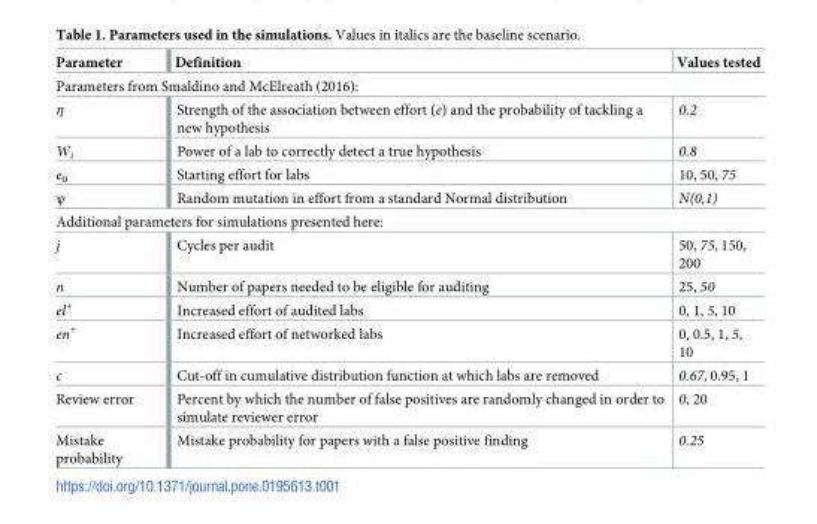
<table><thead><tr><td>Parameter</td><td>Definition</td><td>Values tested</td></tr></thead><tbody><tr><td colspan="3">Parameters from Smaldino and McElreath (2016):</td></tr><tr><td>η</td><td>Strength of the association between effort (e) and the probability of tackling a new hypothesis</td><td>0.2</td></tr><tr><td>W<sub>i</sub></td><td>Power of a lab to correctly detect a true hypothesis</td><td>0.8</td></tr><tr><td>e<sub>0</sub></td><td>Starting effort for labs</td><td>10, 50, 75</td></tr><tr><td>ψ</td><td>Random mutation in effort from a standard Normal distribution</td><td>N(0,1)</td></tr><tr><td colspan="3">Additional parameters for simulations presented here:</td></tr><tr><td>j</td><td>Cycles per audit</td><td>50, 75, 150, 200</td></tr><tr><td>n</td><td>Number of papers needed to be eligible for auditing</td><td>25, 50</td></tr><tr><td>el<sup>+</sup></td><td>Increased effort of audited labs</td><td>0, 1, 5, 10</td></tr><tr><td>en<sup>+</sup></td><td>Increased effort of networked labs</td><td>0, 0.5, 1, 5, 10</td></tr><tr><td>c</td><td>Cut-off in cumulative distribution function at which labs are removed</td><td>0.67, 0.95, 1</td></tr><tr><td>Review error</td><td>Percent by which the number of false positives are randomly changed in order to simulate reviewer error</td><td>0, 20</td></tr><tr><td>Mistake probability</td><td>Mistake probability for papers with a false positive finding</td><td>0.25</td></tr></tbody></table>